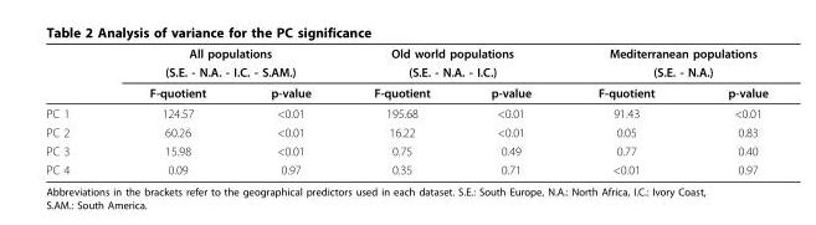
<table><thead><tr><td rowspan="3"></td><td rowspan="2" colspan="2">All populations (S.E. - N.A. - I.C. - S.AM.)</td><td rowspan="2" colspan="2">Old world populations (S.E. - N.A. - I.C.)</td><td rowspan="2" colspan="2">Mediterranean populations (S.E. - N.A.)</td></tr><tr></tr><tr><td>F-quotient</td><td>p-value</td><td>F-quotient</td><td>p-value</td><td>F-quotient</td><td>p-value</td></tr></thead><tbody><tr><td>PC 1</td><td>124.57</td><td>&lt;0.01</td><td>195.68</td><td>&lt;0.01</td><td>91.43</td><td>&lt;0.01</td></tr><tr><td>PC 2</td><td>60.26</td><td>&lt;0.01</td><td>16.22</td><td>&lt;0.01</td><td>0.05</td><td>0.83</td></tr><tr><td>PC 3</td><td>15.98</td><td>&lt;0.01</td><td>0.75</td><td>0.49</td><td>0.77</td><td>0.40</td></tr><tr><td>PC 4</td><td>0.09</td><td>0.97</td><td>0.35</td><td>0.71</td><td>&lt;0.01</td><td>0.97</td></tr></tbody></table>